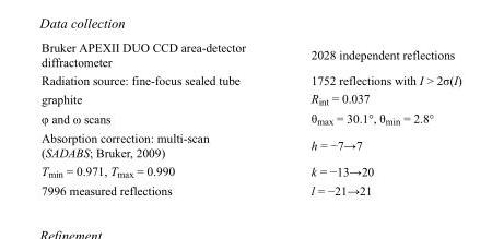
<table><tbody><tr><td>Bruker APEXII DUO CCD area-detector diffractometer</td><td>2028 independent reflections</td></tr><tr><td>Radiation source: fine-focus sealed tube</td><td>1752 reflections with I &gt; 2σ(I)</td></tr><tr><td>graphite</td><td>R<sub>int</sub> = 0.037</td></tr><tr><td>φ and ω scans</td><td>θ<sub>max</sub> = 30.1°, θ<sub>min</sub> = 2.8°</td></tr><tr><td>Absorption correction: multi-scan (SADABS; Bruker, 2009)</td><td>h = −7→7</td></tr><tr><td>T<sub>min</sub> = 0.971, T<sub>max</sub> = 0.990</td><td>k = −13→20</td></tr><tr><td>7996 measured reflections</td><td>l = −21→21</td></tr></tbody></table>